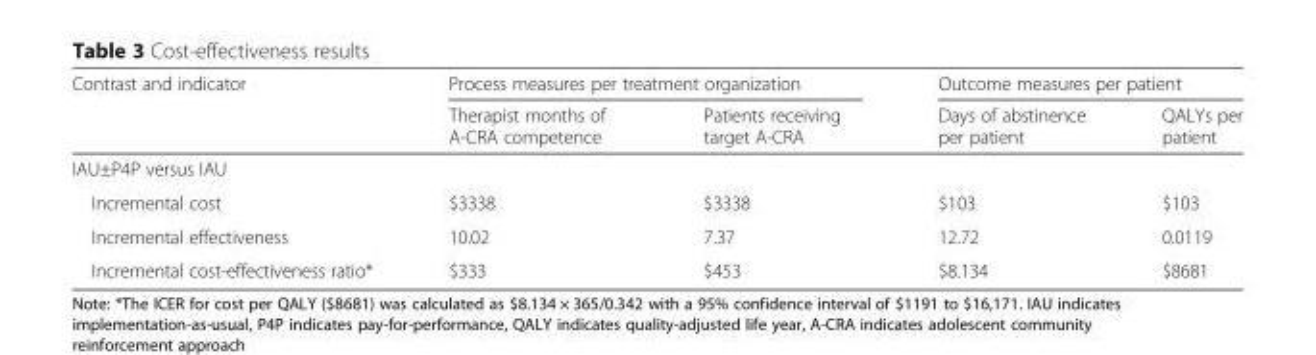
<table><thead><tr><td rowspan="2">Contrast and indicator</td><td colspan="2">Process measures per treatment organization</td><td colspan="2">Outcome measures per patient</td></tr><tr><td>Therapist months of A-CRA competence</td><td>Patients receiving target A-CRA</td><td>Days of abstinence per patient</td><td>QALYs per patient</td></tr></thead><tbody><tr><td colspan="5">IAU±P4P versus IAU</td></tr><tr><td>Incremental cost</td><td>$3338</td><td>$3338</td><td>$103</td><td>$103</td></tr><tr><td>Incremental effectiveness</td><td>10.02</td><td>7.37</td><td>12.72</td><td>0.0119</td></tr><tr><td>Incremental cost-effectiveness ratio*</td><td>$333</td><td>$453</td><td>$8.134</td><td>$8681</td></tr></tbody></table>